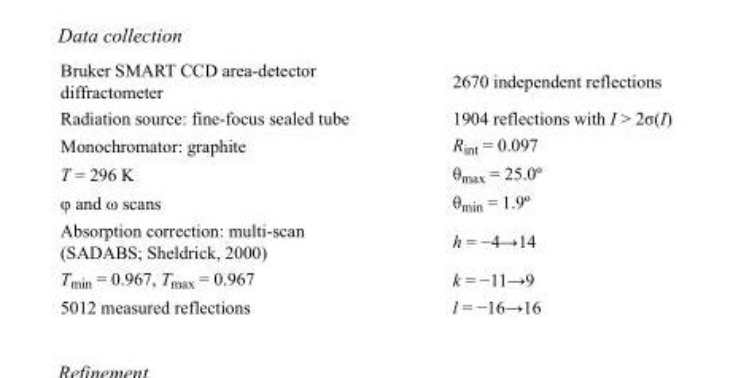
<table><tbody><tr><td>Bruker SMART CCD area-detector diffractometer</td><td>2670 independent reflections</td></tr><tr><td>Radiation source: fine-focus sealed tube</td><td>1904 reflections with I &gt; 2σ(I)</td></tr><tr><td>Monochromator: graphite</td><td>R<sub>int</sub> = 0.097</td></tr><tr><td>T = 296 K</td><td>θ<sub>max</sub> = 25.0º</td></tr><tr><td>φ and ω scans</td><td>θ<sub>min</sub> = 1.9º</td></tr><tr><td>Absorption correction: multi-scan (SADABS; Sheldrick, 2000)</td><td>h = −4→14</td></tr><tr><td>T<sub>min</sub> = 0.967, T<sub>max</sub> = 0.967</td><td>k = −11→9</td></tr><tr><td>5012 measured reflections</td><td>l = −16→16</td></tr></tbody></table>